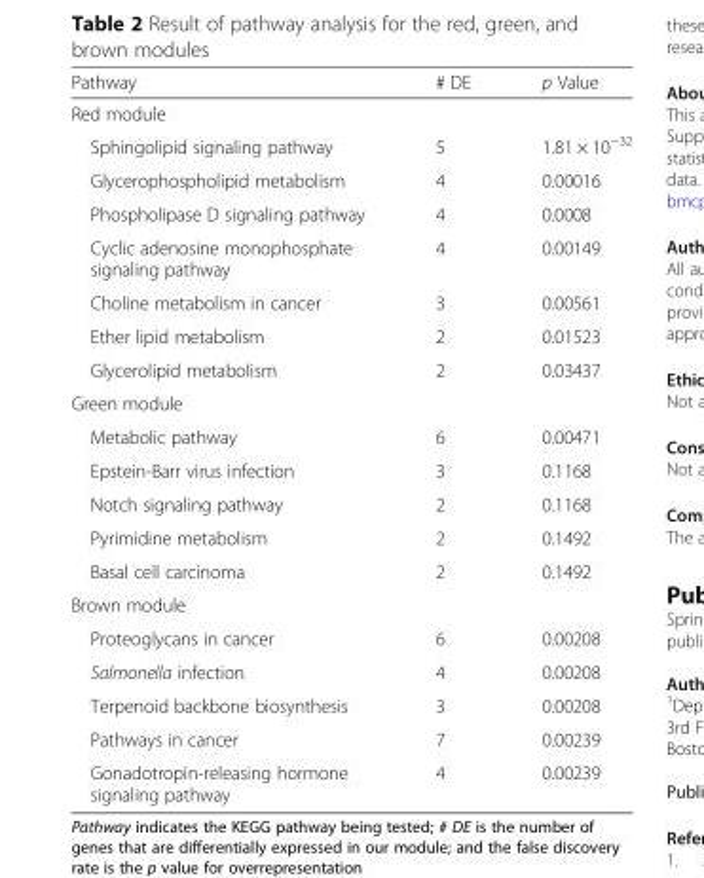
<table><thead><tr><td>Pathway</td><td># DE</td><td>p Value</td></tr></thead><tbody><tr><td colspan="3">Red module</td></tr><tr><td>Sphingolipid signaling pathway</td><td>5</td><td>1.81 × 10<sup>−32</sup></td></tr><tr><td>Glycerophospholipid metabolism</td><td>4</td><td>0.00016</td></tr><tr><td>Phospholipase D signaling pathway</td><td>4</td><td>0.0008</td></tr><tr><td>Cyclic adenosine monophosphate signaling pathway</td><td>4</td><td>0.00149</td></tr><tr><td>Choline metabolism in cancer</td><td>3</td><td>0.00561</td></tr><tr><td>Ether lipid metabolism</td><td>2</td><td>0.01523</td></tr><tr><td>Glycerolipid metabolism</td><td>2</td><td>0.03437</td></tr><tr><td colspan="3">Green module</td></tr><tr><td>Metabolic pathway</td><td>6</td><td>0.00471</td></tr><tr><td>Epstein-Barr virus infection</td><td>3</td><td>0.1168</td></tr><tr><td>Notch signaling pathway</td><td>2</td><td>0.1168</td></tr><tr><td>Pyrimidine metabolism</td><td>2</td><td>0.1492</td></tr><tr><td>Basal cell carcinoma</td><td>2</td><td>0.1492</td></tr><tr><td colspan="3">Brown module</td></tr><tr><td>Proteoglycans in cancer</td><td>6</td><td>0.00208</td></tr><tr><td>Salmonella infection</td><td>4</td><td>0.00208</td></tr><tr><td>Terpenoid backbone biosynthesis</td><td>3</td><td>0.00208</td></tr><tr><td>Pathways in cancer</td><td>7</td><td>0.00239</td></tr><tr><td>Gonadotropin-releasing hormone signaling pathway</td><td>4</td><td>0.00239</td></tr></tbody></table>